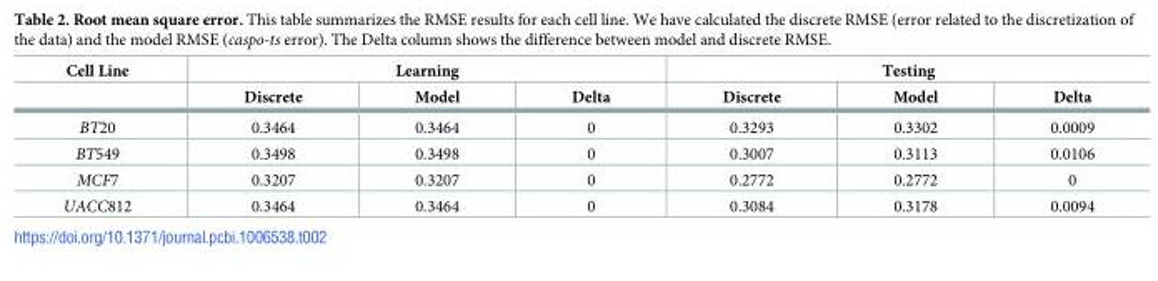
<table><thead><tr><td rowspan="2">Cell Line</td><td colspan="3">Learning</td><td colspan="3">Testing</td></tr><tr><td>Discrete</td><td>Model</td><td>Delta</td><td>Discrete</td><td>Model</td><td>Delta</td></tr></thead><tbody><tr><td>BT20</td><td>0.3464</td><td>0.3464</td><td>0</td><td>0.3293</td><td>0.3302</td><td>0.0009</td></tr><tr><td>BT549</td><td>0.3498</td><td>0.3498</td><td>0</td><td>0.3007</td><td>0.3113</td><td>0.0106</td></tr><tr><td>MCF7</td><td>0.3207</td><td>0.3207</td><td>0</td><td>0.2772</td><td>0.2772</td><td>0</td></tr><tr><td>UACC812</td><td>0.3464</td><td>0.3464</td><td>0</td><td>0.3084</td><td>0.3178</td><td>0.0094</td></tr></tbody></table>